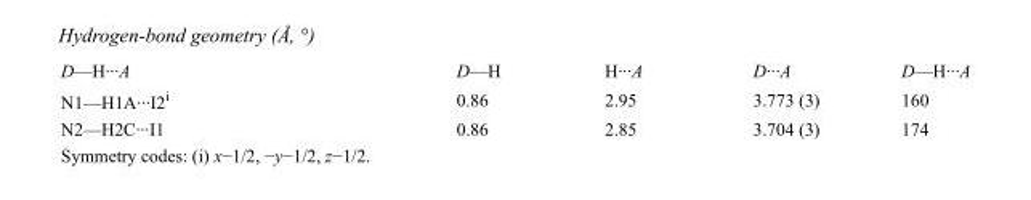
<table><tbody><tr><td>D—H···A</td><td>D—H</td><td>H···A</td><td>D···A</td><td>D—H···A</td></tr><tr><td>N1—H1A···I2<sup>i</sup></td><td>0.86</td><td>2.95</td><td>3.773 (3)</td><td>160</td></tr><tr><td>N2—H2C···I1</td><td>0.86</td><td>2.85</td><td>3.704 (3)</td><td>174</td></tr></tbody></table>